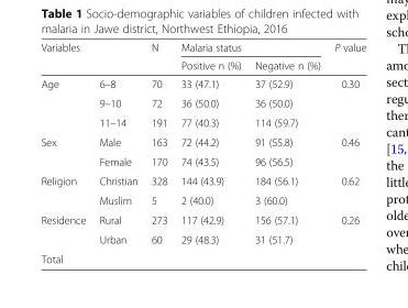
<table><thead><tr><td rowspan="2">Variables</td><td rowspan="2"></td><td rowspan="2">N</td><td colspan="2">Malaria status</td><td rowspan="2">P value</td></tr><tr><td>Positive n (%)</td><td>Negative n (%)</td></tr></thead><tbody><tr><td rowspan="3">Age</td><td>6–8</td><td>70</td><td>33 (47.1)</td><td>37 (52.9)</td><td rowspan="2">0.30</td></tr><tr><td>9–10</td><td>72</td><td>36 (50.0)</td><td>36 (50.0)</td></tr><tr><td>11–14</td><td>191</td><td>77 (40.3)</td><td>114 (59.7)</td><td></td></tr><tr><td rowspan="2">Sex</td><td>Male</td><td>163</td><td>72 (44.2)</td><td>91 (55.8)</td><td rowspan="2">0.46</td></tr><tr><td>Female</td><td>170</td><td>74 (43.5)</td><td>96 (56.5)</td></tr><tr><td rowspan="2">Religion</td><td>Christian</td><td>328</td><td>144 (43.9)</td><td>184 (56.1)</td><td rowspan="2">0.62</td></tr><tr><td>Muslim</td><td>5</td><td>2 (40.0)</td><td>3 (60.0)</td></tr><tr><td rowspan="2">Residence</td><td>Rural</td><td>273</td><td>117 (42.9)</td><td>156 (57.1)</td><td rowspan="2">0.26</td></tr><tr><td>Urban</td><td>60</td><td>29 (48.3)</td><td>31 (51.7)</td></tr><tr><td colspan="2">Total</td><td></td><td></td><td></td><td></td></tr></tbody></table>